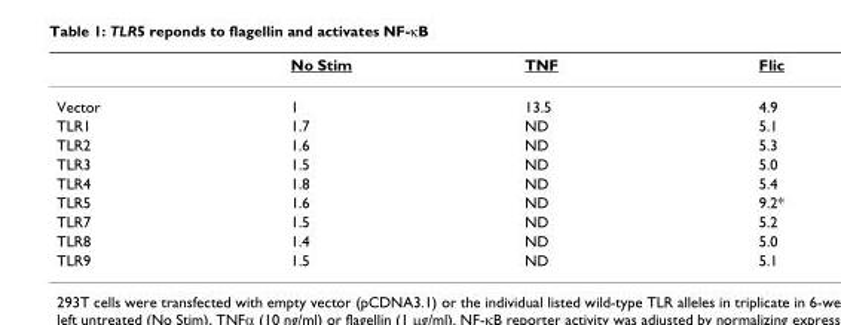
<table><thead><tr><td></td><td>No Stim</td><td>TNF</td><td>Flic</td></tr></thead><tbody><tr><td>Vector</td><td>1</td><td>13.5</td><td>4.9</td></tr><tr><td>TLR1</td><td>1.7</td><td>ND</td><td>5.1</td></tr><tr><td>TLR2</td><td>1.6</td><td>ND</td><td>5.3</td></tr><tr><td>TLR3</td><td>1.5</td><td>ND</td><td>5.0</td></tr><tr><td>TLR4</td><td>1.8</td><td>ND</td><td>5.4</td></tr><tr><td>TLR5</td><td>1.6</td><td>ND</td><td>9.2*</td></tr><tr><td>TLR7</td><td>1.5</td><td>ND</td><td>5.2</td></tr><tr><td>TLR8</td><td>1.4</td><td>ND</td><td>5.0</td></tr><tr><td>TLR9</td><td>1.5</td><td>ND</td><td>5.1</td></tr></tbody></table>